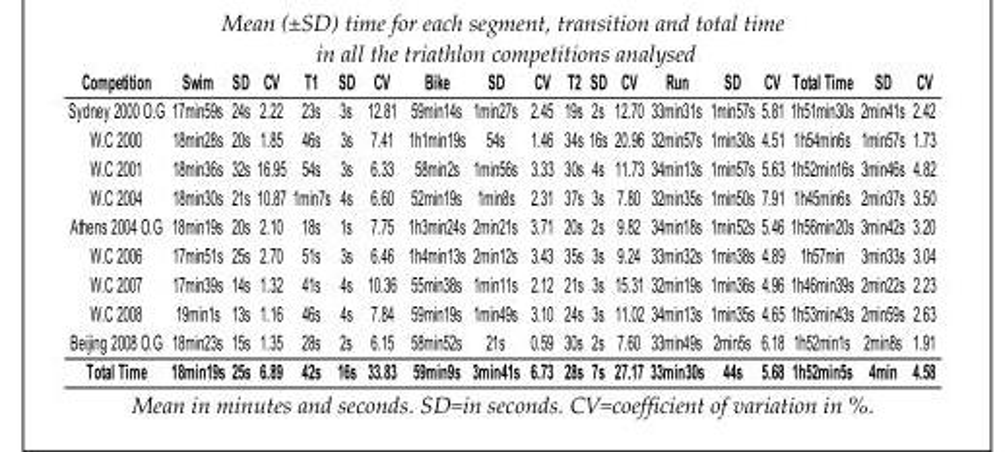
<table><thead><tr><td>Competition</td><td>Swim</td><td>SD</td><td>CV</td><td>T1</td><td>SD</td><td>CV</td><td>Bike</td><td>SD</td><td>CV</td><td>T2</td><td>SD</td><td>CV</td><td>Run</td><td>SD</td><td>CV</td><td>Total Time</td><td>SD</td><td>CV</td></tr></thead><tbody><tr><td>Sydney 2000 O.G</td><td>17min59s</td><td>24s</td><td>2.22</td><td>23s</td><td>3s</td><td>12.81</td><td>59min14s</td><td>1min27s</td><td>2.45</td><td>19s</td><td>2s</td><td>12.70</td><td>33min31s</td><td>1min57s</td><td>5.81</td><td>1h51min30s</td><td>2min41s</td><td>2.42</td></tr><tr><td>W.C 2000</td><td>18min28s</td><td>20s</td><td>1.85</td><td>46s</td><td>3s</td><td>7.41</td><td>1h1min19s</td><td>54s</td><td>1.46</td><td>34s</td><td>16s</td><td>20.96</td><td>32min57s</td><td>1min30s</td><td>4.51</td><td>1h54min6s</td><td>1min57s</td><td>1.73</td></tr><tr><td>W.C 2001</td><td>18min36s</td><td>32s</td><td>16.95</td><td>54s</td><td>3s</td><td>6.33</td><td>58min2s</td><td>1min56s</td><td>3.33</td><td>30s</td><td>4s</td><td>11.73</td><td>34min13s</td><td>1min57s</td><td>5.63</td><td>1h52min16s</td><td>3min46s</td><td>4.82</td></tr><tr><td>W.C 2004</td><td>18min30s</td><td>21s</td><td>10.87</td><td>1min7s</td><td>4s</td><td>6.60</td><td>52min19s</td><td>1min8s</td><td>2.31</td><td>37s</td><td>3s</td><td>7.80</td><td>32min35s</td><td>1min50s</td><td>7.91</td><td>1h45min6s</td><td>2min37s</td><td>3.50</td></tr><tr><td>Athens 2004 O.G</td><td>18min19s</td><td>20s</td><td>2.10</td><td>18s</td><td>1s</td><td>7.75</td><td>1h3min24s</td><td>2min21s</td><td>3.71</td><td>20s</td><td>2s</td><td>9.82</td><td>34min18s</td><td>1min52s</td><td>5.46</td><td>1h56min20s</td><td>3min42s</td><td>3.20</td></tr><tr><td>W.C 2006</td><td>17min51s</td><td>25s</td><td>2.70</td><td>51s</td><td>3s</td><td>6.46</td><td>1h4min13s</td><td>2min12s</td><td>3.43</td><td>35s</td><td>3s</td><td>9.24</td><td>33min32s</td><td>1min38s</td><td>4.89</td><td>1h57min</td><td>3min33s</td><td>3.04</td></tr><tr><td>W.C 2007</td><td>17min39s</td><td>14s</td><td>1.32</td><td>41s</td><td>4s</td><td>10.36</td><td>55min38s</td><td>1min11s</td><td>2.12</td><td>21s</td><td>3s</td><td>15.31</td><td>32min19s</td><td>1min36s</td><td>4.96</td><td>1h46min39s</td><td>2min22s</td><td>2.23</td></tr><tr><td>W.C 2008</td><td>19min1s</td><td>13s</td><td>1.16</td><td>46s</td><td>4s</td><td>7.84</td><td>59min19s</td><td>1min49s</td><td>3.10</td><td>24s</td><td>3s</td><td>11.02</td><td>34min13s</td><td>1min35s</td><td>4.65</td><td>1h53min43s</td><td>2min59s</td><td>2.63</td></tr><tr><td>Beijing 2008 O.G</td><td>18min23s</td><td>15s</td><td>1.35</td><td>28s</td><td>2s</td><td>6.15</td><td>58min52s</td><td>21s</td><td>0.59</td><td>30s</td><td>2s</td><td>7.60</td><td>33min49s</td><td>2min5s</td><td>6.18</td><td>1h52min1s</td><td>2min8s</td><td>1.91</td></tr><tr><td>Total Time</td><td>18min19s</td><td>25s</td><td>6.89</td><td>42s</td><td>16s</td><td>33.83</td><td>59min9s</td><td>3min41s</td><td>6.73</td><td>28s</td><td>7s</td><td>27.17</td><td>33min30s</td><td>44s</td><td>5.68</td><td>1h52min5s</td><td>4min</td><td>4.58</td></tr></tbody></table>